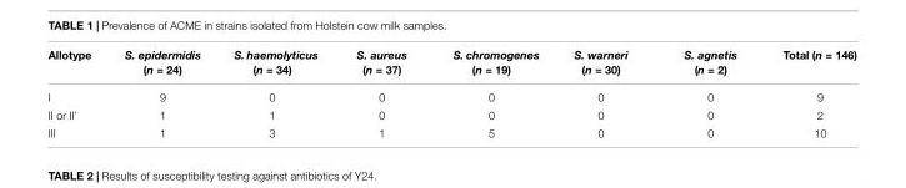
<table><thead><tr><td>Allotype</td><td>S. epidermidis (n = 24)</td><td>S. haemolyticus (n = 34)</td><td>S. aureus (n = 37)</td><td>S. chromogenes (n = 19)</td><td>S. warneri (n = 30)</td><td>S. agnetis (n = 2)</td><td>Total (n = 146)</td></tr></thead><tbody><tr><td>I</td><td>9</td><td>0</td><td>0</td><td>0</td><td>0</td><td>0</td><td>9</td></tr><tr><td>II or II’</td><td>1</td><td>1</td><td>0</td><td>0</td><td>0</td><td>0</td><td>2</td></tr><tr><td>III</td><td>1</td><td>3</td><td>1</td><td>5</td><td>0</td><td>0</td><td>10</td></tr></tbody></table>